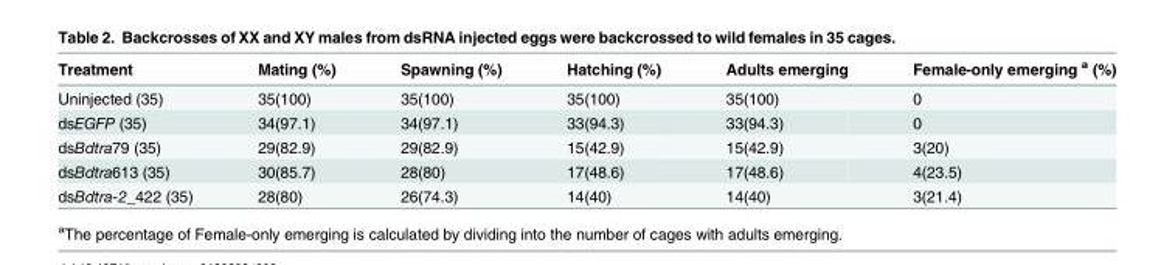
<table><thead><tr><td>Treatment</td><td>Mating (%)</td><td>Spawning (%)</td><td>Hatching (%)</td><td>Adults emerging</td><td>Female-only emerging <sup>a</sup> (%)</td></tr></thead><tbody><tr><td>Uninjected (35)</td><td>35(100)</td><td>35(100)</td><td>35(100)</td><td>35(100)</td><td>0</td></tr><tr><td>dsEGFP (35)</td><td>34(97.1)</td><td>34(97.1)</td><td>33(94.3)</td><td>33(94.3)</td><td>0</td></tr><tr><td>dsBdtra79 (35)</td><td>29(82.9)</td><td>29(82.9)</td><td>15(42.9)</td><td>15(42.9)</td><td>3(20)</td></tr><tr><td>dsBdtra613 (35)</td><td>30(85.7)</td><td>28(80)</td><td>17(48.6)</td><td>17(48.6)</td><td>4(23.5)</td></tr><tr><td>dsBdtra-2_422 (35)</td><td>28(80)</td><td>26(74.3)</td><td>14(40)</td><td>14(40)</td><td>3(21.4)</td></tr></tbody></table>